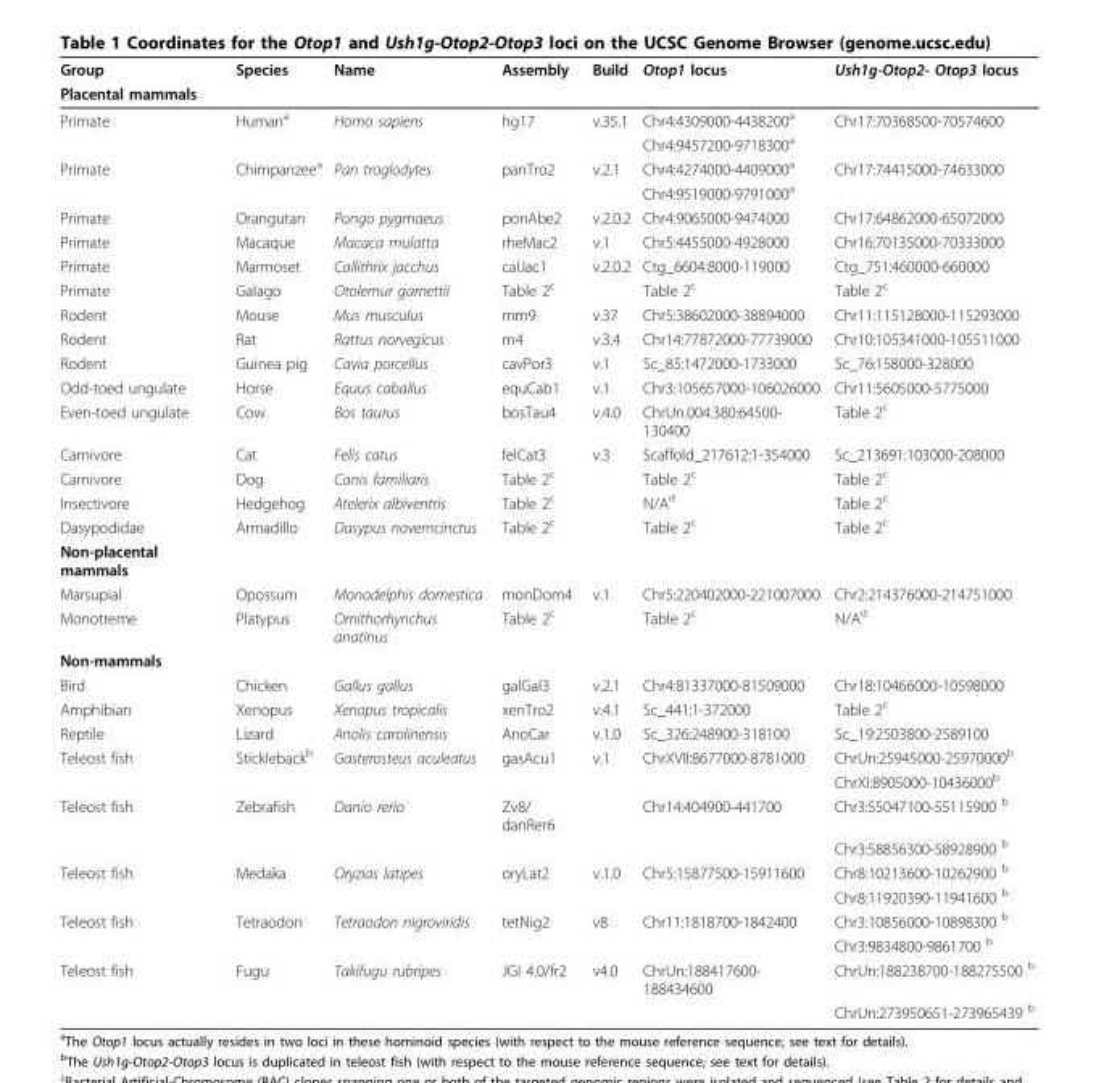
<table><thead><tr><td rowspan="2">Group Placental mammals</td><td rowspan="2">Species</td><td rowspan="2">Name</td><td rowspan="2">Assembly</td><td rowspan="2">Build</td><td rowspan="2">Otop1 locus</td><td rowspan="2">Ush1g-Otop2- Otop3 locus</td></tr><tr></tr></thead><tbody><tr><td rowspan="2">Primate</td><td>Human<sup>a</sup></td><td>Homo sapiens</td><td>hg17</td><td>v.35.1</td><td>Chr4:4309000-4438200<sup>a</sup></td><td>Chr17:70368500-70574600</td></tr><tr><td></td><td></td><td></td><td></td><td>Chr4:9457200-9718300<sup>a</sup></td><td></td></tr><tr><td rowspan="2">Primate</td><td>Chimpanzee<sup>a</sup></td><td>Pan troglodytes</td><td>panTro2</td><td>v.2.1</td><td>Chr4:4274000-4409000<sup>a</sup></td><td>Chr17:74415000-74633000</td></tr><tr><td></td><td></td><td></td><td></td><td>Chr4:9519000-9791000<sup>a</sup></td><td></td></tr><tr><td>Primate</td><td>Orangutan</td><td>Pongo pygmaeus</td><td>ponAbe2</td><td>v.2.0.2</td><td>Chr4:9065000-9474000</td><td>Chr17:64862000-65072000</td></tr><tr><td>Primate</td><td>Macaque</td><td>Macaca mulatta</td><td>rheMac2</td><td>v.1</td><td>Chr5:4455000-4928000</td><td>Chr16:70135000-70333000</td></tr><tr><td>Primate</td><td>Marmoset</td><td>Callithrix jacchus</td><td>calJac1</td><td>v.2.0.2</td><td>Ctg_6604:8000-119000</td><td>Ctg_751:460000-660000</td></tr><tr><td>Primate</td><td>Galago</td><td>Otolemur garnettii</td><td>Table 2<sup>c</sup></td><td></td><td>Table 2<sup>c</sup></td><td>Table 2<sup>c</sup></td></tr><tr><td>Rodent</td><td>Mouse</td><td>Mus musculus</td><td>mm9</td><td>v.37</td><td>Chr5:38602000-38894000</td><td>Chr11:115128000-115293000</td></tr><tr><td>Rodent</td><td>Rat</td><td>Rattus norvegicus</td><td>rn4</td><td>v.3.4</td><td>Chr14:77872000-77739000</td><td>Chr10:105341000-105511000</td></tr><tr><td>Rodent</td><td>Guinea pig</td><td>Cavia porcellus</td><td>cavPor3</td><td>v.1</td><td>Sc_85:1472000-1733000</td><td>Sc_76:158000-328000</td></tr><tr><td>Odd-toed ungulate</td><td>Horse</td><td>Equus caballus</td><td>equCab1</td><td>v.1</td><td>Chr3:105657000-106026000</td><td>Chr11:5605000-5775000</td></tr><tr><td>Even-toed ungulate</td><td>Cow</td><td>Bos taurus</td><td>bosTau4</td><td>v.4.0</td><td>ChrUn.004.380:64500- 130400</td><td>Table 2<sup>c</sup></td></tr><tr><td>Carnivore</td><td>Cat</td><td>Felis catus</td><td>felCat3</td><td>v.3</td><td>Scaffold_217612:1-354000</td><td>Sc_213691:103000-208000</td></tr><tr><td>Carnivore</td><td>Dog</td><td>Canis familiaris</td><td>Table 2<sup>c</sup></td><td></td><td>Table 2<sup>c</sup></td><td>Table 2<sup>c</sup></td></tr><tr><td>Insectivore</td><td>Hedgehog</td><td>Atelerix albiventris</td><td>Table 2<sup>c</sup></td><td></td><td>N/A<sup>d</sup></td><td>Table 2<sup>c</sup></td></tr><tr><td>Dasypodidae</td><td>Armadillo</td><td>Dasypus novemcinctus</td><td>Table 2<sup>c</sup></td><td></td><td>Table 2<sup>c</sup></td><td>Table 2<sup>c</sup></td></tr><tr><td colspan="7">Non-placental mammals</td></tr><tr><td>Marsupial</td><td>Opossum</td><td>Monodelphis domestica</td><td>monDom4</td><td>v.1</td><td>Chr5:220402000-221007000</td><td>Chr2:214376000-214751000</td></tr><tr><td>Monotreme</td><td>Platypus</td><td>Ornithorhynchus anatinus</td><td>Table 2<sup>c</sup></td><td></td><td>Table 2<sup>c</sup></td><td>N/A<sup>d</sup></td></tr><tr><td colspan="7">Non-mammals</td></tr><tr><td>Bird</td><td>Chicken</td><td>Gallus gallus</td><td>galGal3</td><td>v.2.1</td><td>Chr4:81337000-81509000</td><td>Chr18:10466000-10598000</td></tr><tr><td>Amphibian</td><td>Xenopus</td><td>Xenopus tropicalis</td><td>xenTro2</td><td>v.4.1</td><td>Sc_441:1-372000</td><td>Table 2<sup>c</sup></td></tr><tr><td>Reptile</td><td>Lizard</td><td>Anolis carolinensis</td><td>AnoCar</td><td>v.1.0</td><td>Sc_326:248900-318100</td><td>Sc_19:2503800-2589100</td></tr><tr><td rowspan="2">Teleost fish</td><td>Stickleback<sup>b</sup></td><td>Gasterosteus aculeatus</td><td>gasAcu1</td><td>v.1</td><td>ChrXVII:8677000-8781000</td><td>ChrUn:25945000-25970000<sup>b</sup></td></tr><tr><td></td><td></td><td></td><td></td><td></td><td>ChrXI:8905000-10436000<sup>b</sup></td></tr><tr><td rowspan="2">Teleost fish</td><td>Zebrafish</td><td>Danio rerio</td><td>Zv8/ danRer6</td><td></td><td>Chr14:404900-441700</td><td>Chr3:55047100-55115900 <sup>b</sup></td></tr><tr><td></td><td></td><td></td><td></td><td></td><td>Chr3:58856300-58928900 <sup>b</sup></td></tr><tr><td rowspan="2">Teleost fish</td><td>Medaka</td><td>Oryzias latipes</td><td>oryLat2</td><td>v.1.0</td><td>Chr5:15877500-15911600</td><td>Chr8:10213600-10262900 <sup>b</sup></td></tr><tr><td></td><td></td><td></td><td></td><td></td><td>Chr8:11920390-11941600 <sup>b</sup></td></tr><tr><td rowspan="2">Teleost fish</td><td>Tetraodon</td><td>Tetraodon nigroviridis</td><td>tetNig2</td><td>v8</td><td>Chr11:1818700-1842400</td><td>Chr3:10856000-10898300 <sup>b</sup></td></tr><tr><td></td><td></td><td></td><td></td><td></td><td>Chr3:9834800-9861700 <sup>b</sup></td></tr><tr><td rowspan="2">Teleost fish</td><td>Fugu</td><td>Takifugu rubripes</td><td>JGI 4.0/fr2</td><td>v4.0</td><td>ChrUn:188417600- 188434600</td><td>ChrUn:188238700-188275500 <sup>b</sup></td></tr><tr><td></td><td></td><td></td><td></td><td></td><td>ChrUn:273950651-273965439 <sup>b</sup></td></tr></tbody></table>